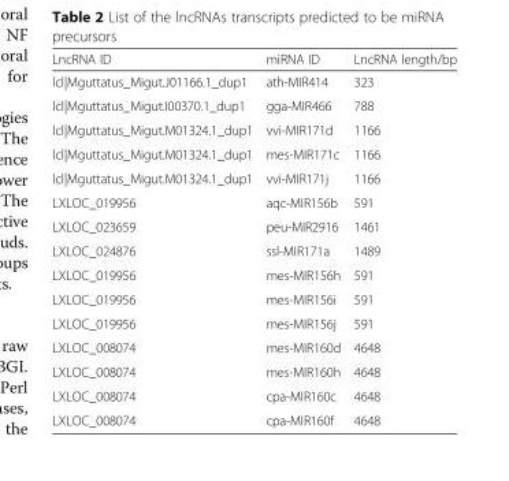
<table><thead><tr><td>LncRNA ID</td><td>miRNA ID</td><td>LncRNA length/bp</td></tr></thead><tbody><tr><td>lcl|Mguttatus_Migut.J01166.1_dup1</td><td>ath-MIR414</td><td>323</td></tr><tr><td>lcl|Mguttatus_Migut.I00370.1_dup1</td><td>gga-MIR466</td><td>788</td></tr><tr><td>lcl|Mguttatus_Migut.M01324.1_dup1</td><td>vvi-MIR171d</td><td>1166</td></tr><tr><td>lcl|Mguttatus_Migut.M01324.1_dup1</td><td>mes-MIR171c</td><td>1166</td></tr><tr><td>lcl|Mguttatus_Migut.M01324.1_dup1</td><td>vvi-MIR171j</td><td>1166</td></tr><tr><td>LXLOC_019956</td><td>aqc-MIR156b</td><td>591</td></tr><tr><td>LXLOC_023659</td><td>peu-MIR2916</td><td>1461</td></tr><tr><td>LXLOC_024876</td><td>ssl-MIR171a</td><td>1489</td></tr><tr><td>LXLOC_019956</td><td>mes-MIR156h</td><td>591</td></tr><tr><td>LXLOC_019956</td><td>mes-MIR156i</td><td>591</td></tr><tr><td>LXLOC_019956</td><td>mes-MIR156j</td><td>591</td></tr><tr><td>LXLOC_008074</td><td>mes-MIR160d</td><td>4648</td></tr><tr><td>LXLOC_008074</td><td>mes-MIR160h</td><td>4648</td></tr><tr><td>LXLOC_008074</td><td>cpa-MIR160c</td><td>4648</td></tr><tr><td>LXLOC_008074</td><td>cpa-MIR160f</td><td>4648</td></tr></tbody></table>